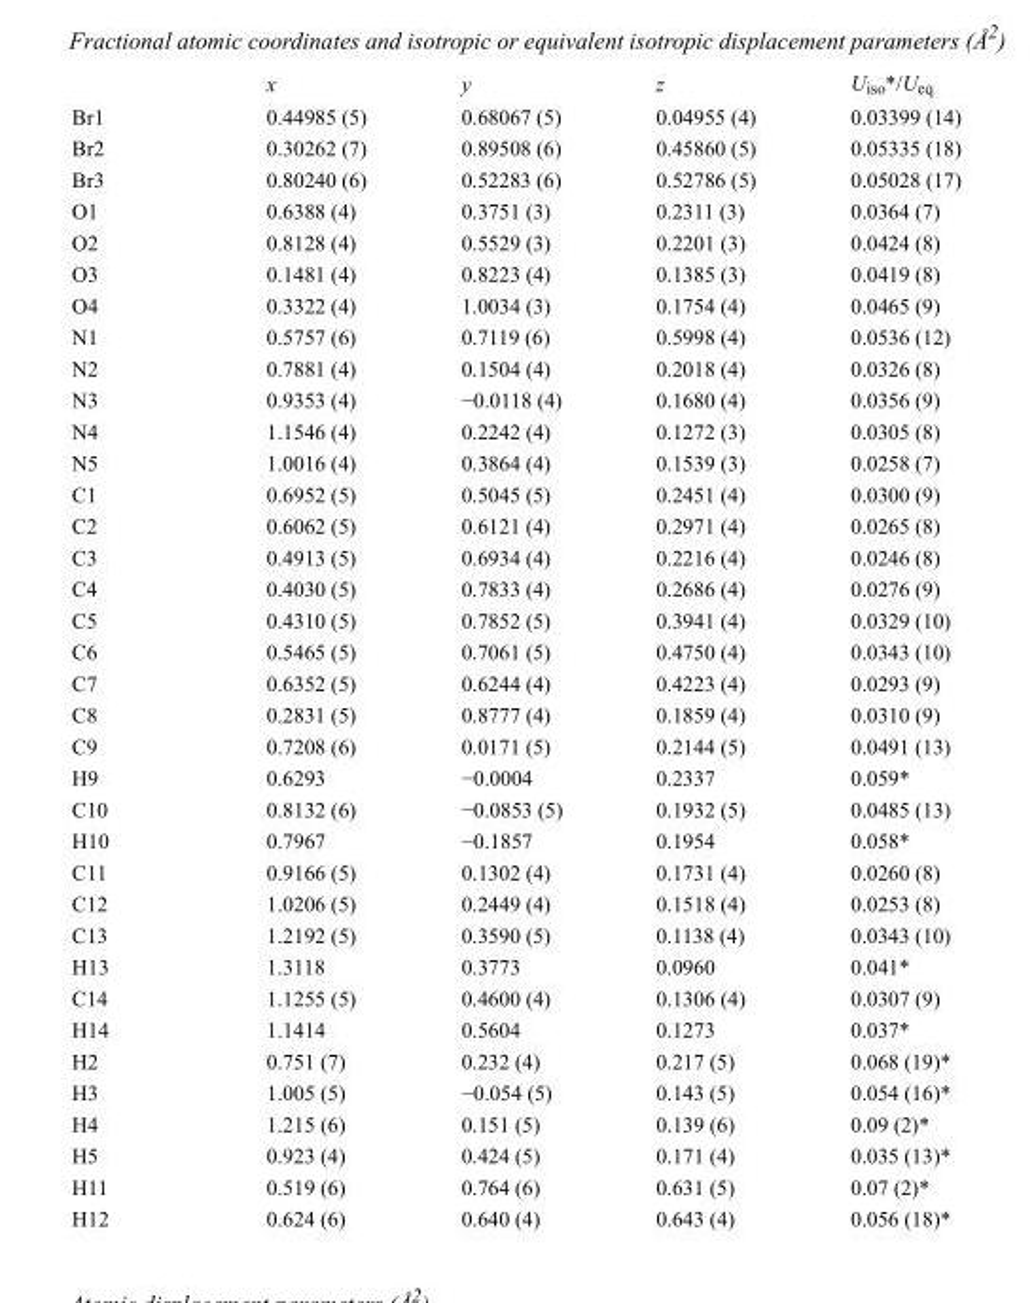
<table><thead><tr><td></td><td>x</td><td>y</td><td>z</td><td>U<sub>iso</sub>*/U<sub>eq</sub></td></tr></thead><tbody><tr><td>Br1</td><td>0.44985 (5)</td><td>0.68067 (5)</td><td>0.04955 (4)</td><td>0.03399 (14)</td></tr><tr><td>Br2</td><td>0.30262 (7)</td><td>0.89508 (6)</td><td>0.45860 (5)</td><td>0.05335 (18)</td></tr><tr><td>Br3</td><td>0.80240 (6)</td><td>0.52283 (6)</td><td>0.52786 (5)</td><td>0.05028 (17)</td></tr><tr><td>O1</td><td>0.6388 (4)</td><td>0.3751 (3)</td><td>0.2311 (3)</td><td>0.0364 (7)</td></tr><tr><td>O2</td><td>0.8128 (4)</td><td>0.5529 (3)</td><td>0.2201 (3)</td><td>0.0424 (8)</td></tr><tr><td>O3</td><td>0.1481 (4)</td><td>0.8223 (4)</td><td>0.1385 (3)</td><td>0.0419 (8)</td></tr><tr><td>O4</td><td>0.3322 (4)</td><td>1.0034 (3)</td><td>0.1754 (4)</td><td>0.0465 (9)</td></tr><tr><td>N1</td><td>0.5757 (6)</td><td>0.7119 (6)</td><td>0.5998 (4)</td><td>0.0536 (12)</td></tr><tr><td>N2</td><td>0.7881 (4)</td><td>0.1504 (4)</td><td>0.2018 (4)</td><td>0.0326 (8)</td></tr><tr><td>N3</td><td>0.9353 (4)</td><td>−0.0118 (4)</td><td>0.1680 (4)</td><td>0.0356 (9)</td></tr><tr><td>N4</td><td>1.1546 (4)</td><td>0.2242 (4)</td><td>0.1272 (3)</td><td>0.0305 (8)</td></tr><tr><td>N5</td><td>1.0016 (4)</td><td>0.3864 (4)</td><td>0.1539 (3)</td><td>0.0258 (7)</td></tr><tr><td>C1</td><td>0.6952 (5)</td><td>0.5045 (5)</td><td>0.2451 (4)</td><td>0.0300 (9)</td></tr><tr><td>C2</td><td>0.6062 (5)</td><td>0.6121 (4)</td><td>0.2971 (4)</td><td>0.0265 (8)</td></tr><tr><td>C3</td><td>0.4913 (5)</td><td>0.6934 (4)</td><td>0.2216 (4)</td><td>0.0246 (8)</td></tr><tr><td>C4</td><td>0.4030 (5)</td><td>0.7833 (4)</td><td>0.2686 (4)</td><td>0.0276 (9)</td></tr><tr><td>C5</td><td>0.4310 (5)</td><td>0.7852 (5)</td><td>0.3941 (4)</td><td>0.0329 (10)</td></tr><tr><td>C6</td><td>0.5465 (5)</td><td>0.7061 (5)</td><td>0.4750 (4)</td><td>0.0343 (10)</td></tr><tr><td>C7</td><td>0.6352 (5)</td><td>0.6244 (4)</td><td>0.4223 (4)</td><td>0.0293 (9)</td></tr><tr><td>C8</td><td>0.2831 (5)</td><td>0.8777 (4)</td><td>0.1859 (4)</td><td>0.0310 (9)</td></tr><tr><td>C9</td><td>0.7208 (6)</td><td>0.0171 (5)</td><td>0.2144 (5)</td><td>0.0491 (13)</td></tr><tr><td>H9</td><td>0.6293</td><td>−0.0004</td><td>0.2337</td><td>0.059*</td></tr><tr><td>C10</td><td>0.8132 (6)</td><td>−0.0853 (5)</td><td>0.1932 (5)</td><td>0.0485 (13)</td></tr><tr><td>H10</td><td>0.7967</td><td>−0.1857</td><td>0.1954</td><td>0.058*</td></tr><tr><td>C11</td><td>0.9166 (5)</td><td>0.1302 (4)</td><td>0.1731 (4)</td><td>0.0260 (8)</td></tr><tr><td>C12</td><td>1.0206 (5)</td><td>0.2449 (4)</td><td>0.1518 (4)</td><td>0.0253 (8)</td></tr><tr><td>C13</td><td>1.2192 (5)</td><td>0.3590 (5)</td><td>0.1138 (4)</td><td>0.0343 (10)</td></tr><tr><td>H13</td><td>1.3118</td><td>0.3773</td><td>0.0960</td><td>0.041*</td></tr><tr><td>C14</td><td>1.1255 (5)</td><td>0.4600 (4)</td><td>0.1306 (4)</td><td>0.0307 (9)</td></tr><tr><td>H14</td><td>1.1414</td><td>0.5604</td><td>0.1273</td><td>0.037*</td></tr><tr><td>H2</td><td>0.751 (7)</td><td>0.232 (4)</td><td>0.217 (5)</td><td>0.068 (19)*</td></tr><tr><td>H3</td><td>1.005 (5)</td><td>−0.054 (5)</td><td>0.143 (5)</td><td>0.054 (16)*</td></tr><tr><td>H4</td><td>1.215 (6)</td><td>0.151 (5)</td><td>0.139 (6)</td><td>0.09 (2)*</td></tr><tr><td>H5</td><td>0.923 (4)</td><td>0.424 (5)</td><td>0.171 (4)</td><td>0.035 (13)*</td></tr><tr><td>H11</td><td>0.519 (6)</td><td>0.764 (6)</td><td>0.631 (5)</td><td>0.07 (2)*</td></tr><tr><td>H12</td><td>0.624 (6)</td><td>0.640 (4)</td><td>0.643 (4)</td><td>0.056 (18)*</td></tr></tbody></table>